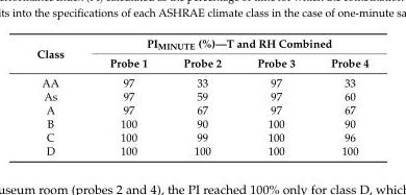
<table><thead><tr><td rowspan="2">Class</td><td colspan="4">PI<sub>MINUTE</sub> (%)—T and RH Combined</td></tr><tr><td>Probe 1</td><td>Probe 2</td><td>Probe 3</td><td>Probe 4</td></tr></thead><tbody><tr><td>AA</td><td>97</td><td>33</td><td>97</td><td>33</td></tr><tr><td>As</td><td>97</td><td>59</td><td>97</td><td>60</td></tr><tr><td>A</td><td>97</td><td>67</td><td>97</td><td>67</td></tr><tr><td>B</td><td>100</td><td>90</td><td>100</td><td>90</td></tr><tr><td>C</td><td>100</td><td>99</td><td>100</td><td>96</td></tr><tr><td>D</td><td>100</td><td>100</td><td>100</td><td>100</td></tr></tbody></table>